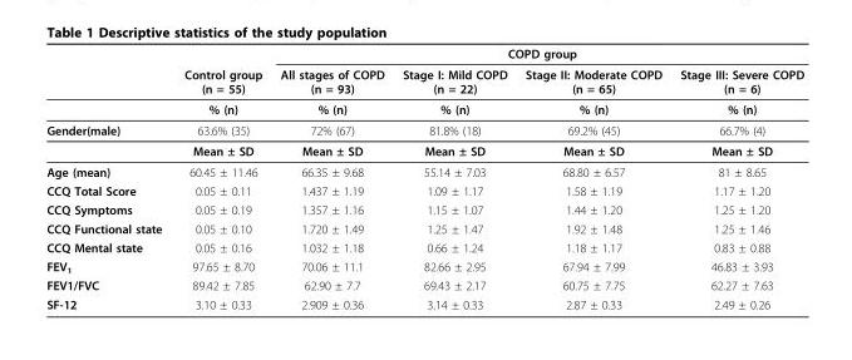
<table><thead><tr><td rowspan="2"></td><td rowspan="2">Control group (n = 55)</td><td colspan="4">COPD group</td></tr><tr><td>All stages of COPD (n = 93)</td><td>Stage I: Mild COPD (n = 22)</td><td>Stage II: Moderate COPD (n = 65)</td><td>Stage III: Severe COPD (n = 6)</td></tr></thead><tbody><tr><td></td><td>% (n)</td><td>% (n)</td><td>% (n)</td><td>% (n)</td><td>% (n)</td></tr><tr><td rowspan="2">Gender(male)</td><td>63.6% (35)</td><td>72% (67)</td><td>81.8% (18)</td><td>69.2% (45)</td><td>66.7% (4)</td></tr><tr><td>Mean ± SD</td><td>Mean ± SD</td><td>Mean ± SD</td><td>Mean ± SD</td><td>Mean ± SD</td></tr><tr><td>Age (mean)</td><td>60.45 ± 11.46</td><td>66.35 ± 9.68</td><td>55.14 ± 7.03</td><td>68.80 ± 6.57</td><td>81 ± 8.65</td></tr><tr><td>CCQ Total Score</td><td>0.05 ± 0.11</td><td>1.437 ± 1.19</td><td>1.09 ± 1.17</td><td>1.58 ± 1.19</td><td>1.17 ± 1.20</td></tr><tr><td>CCQ Symptoms</td><td>0.05 ± 0.19</td><td>1.357 ± 1.16</td><td>1.15 ± 1.07</td><td>1.44 ± 1.20</td><td>1.25 ± 1.20</td></tr><tr><td>CCQ Functional state</td><td>0.05 ± 0.10</td><td>1.720 ± 1.49</td><td>1.25 ± 1.47</td><td>1.92 ± 1.48</td><td>1.25 ± 1.46</td></tr><tr><td>CCQ Mental state</td><td>0.05 ± 0.16</td><td>1.032 ± 1.18</td><td>0.66 ± 1.24</td><td>1.18 ± 1.17</td><td>0.83 ± 0.88</td></tr><tr><td>FEV<sub>1</sub></td><td>97.65 ± 8.70</td><td>70.06 ± 11.1</td><td>82.66 ± 2.95</td><td>67.94 ± 7.99</td><td>46.83 ± 3.93</td></tr><tr><td>FEV1/FVC</td><td>89.42 ± 7.85</td><td>62.90 ± 7.7</td><td>69.43 ± 2.17</td><td>60.75 ± 7.75</td><td>62.27 ± 7.63</td></tr><tr><td>SF-12</td><td>3.10 ± 0.33</td><td>2.909 ± 0.36</td><td>3.14 ± 0.33</td><td>2.87 ± 0.33</td><td>2.49 ± 0.26</td></tr></tbody></table>